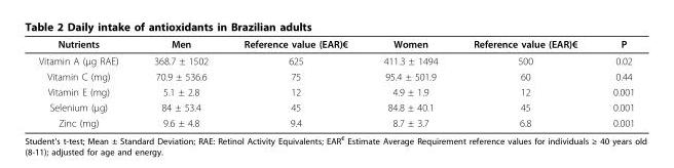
<table><thead><tr><td>Nutrients</td><td>Men</td><td>Reference value (EAR)€</td><td>Women</td><td>Reference value (EAR)€</td><td>P</td></tr></thead><tbody><tr><td>Vitamin A (μg RAE)</td><td>368.7 ± 1502</td><td>625</td><td>411.3 ± 1494</td><td>500</td><td>0.02</td></tr><tr><td>Vitamin C (mg)</td><td>70.9 ± 536.6</td><td>75</td><td>95.4 ± 501.9</td><td>60</td><td>0.44</td></tr><tr><td>Vitamin E (mg)</td><td>5.1 ± 2.8</td><td>12</td><td>4.9 ± 1.9</td><td>12</td><td>0.001</td></tr><tr><td>Selenium (μg)</td><td>84 ± 53.4</td><td>45</td><td>84.8 ± 40.1</td><td>45</td><td>0.001</td></tr><tr><td>Zinc (mg)</td><td>9.6 ± 4.8</td><td>9.4</td><td>8.7 ± 3.7</td><td>6.8</td><td>0.001</td></tr></tbody></table>